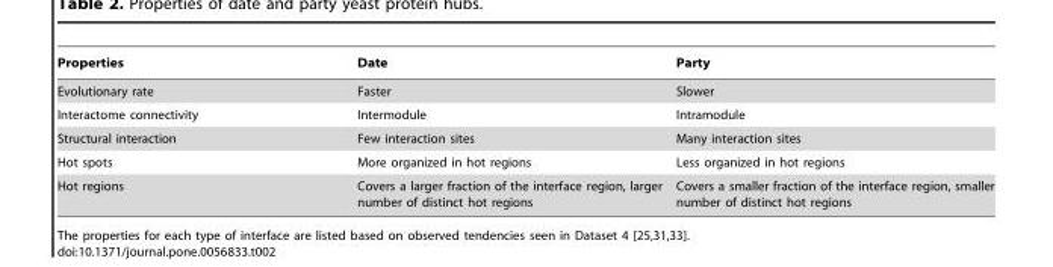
<table><thead><tr><td>Properties</td><td>Date</td><td>Party</td></tr></thead><tbody><tr><td>Evolutionary rate</td><td>Faster</td><td>Slower</td></tr><tr><td>Interactome connectivity</td><td>Intermodule</td><td>Intramodule</td></tr><tr><td>Structural interaction</td><td>Few interaction sites</td><td>Many interaction sites</td></tr><tr><td>Hot spots</td><td>More organized in hot regions</td><td>Less organized in hot regions</td></tr><tr><td>Hot regions</td><td>Covers a larger fraction of the interface region, larger number of distinct hot regions</td><td>Covers a smaller fraction of the interface region, smaller number of distinct hot regions</td></tr></tbody></table>